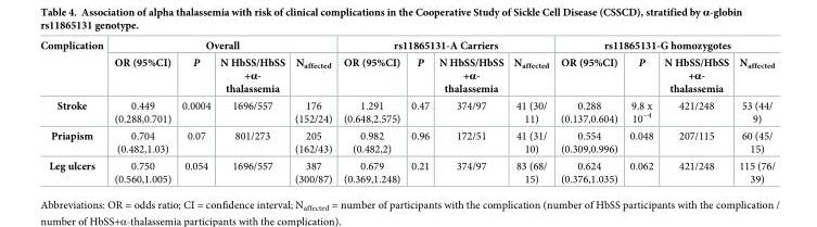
<table><thead><tr><td rowspan="2">Complication</td><td colspan="4">Overall</td><td colspan="4">rs11865131-A Carriers</td><td colspan="4">rs11865131-G homozygotes</td></tr><tr><td>OR (95%CI)</td><td>P</td><td>N HbSS/HbSS +α- thalassemia</td><td>N<sub>affected</sub></td><td>OR (95%CI)</td><td>P</td><td>N HbSS/HbSS +α- thalassemia</td><td>N<sub>affected</sub></td><td>OR (95%CI)</td><td>P</td><td>N HbSS/HbSS +α- thalassemia</td><td>N<sub>affected</sub></td></tr></thead><tbody><tr><td>Stroke</td><td>0.449 (0.288,0.701)</td><td>0.0004</td><td>1696/557</td><td>176 (152/24)</td><td>1.291 (0.648,2.575)</td><td>0.47</td><td>374/97</td><td>41 (30/ 11)</td><td>0.288 (0.137,0.604)</td><td>9.8 x 10<sup>−4</sup></td><td>421/248</td><td>53 (44/ 9)</td></tr><tr><td>Priapism</td><td>0.704 (0.482,1.03)</td><td>0.07</td><td>801/273</td><td>205 (162/43)</td><td>0.982 (0.482,2)</td><td>0.96</td><td>172/51</td><td>41 (31/ 10)</td><td>0.554 (0.309,0.996)</td><td>0.048</td><td>207/115</td><td>60 (45/ 15)</td></tr><tr><td>Leg ulcers</td><td>0.750 (0.560,1.005)</td><td>0.054</td><td>1696/557</td><td>387 (300/87)</td><td>0.679 (0.369,1.248)</td><td>0.21</td><td>374/97</td><td>83 (68/ 15)</td><td>0.624 (0.376,1.035)</td><td>0.062</td><td>421/248</td><td>115 (76/ 39)</td></tr></tbody></table>